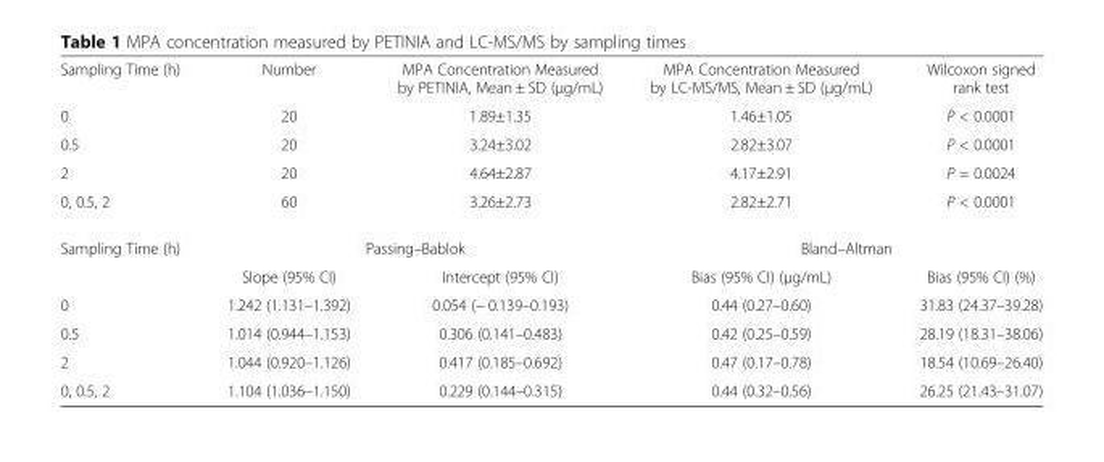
<table><tbody><tr><td>Sampling Time (h)</td><td>Number</td><td>MPA Concentration Measured by PETINIA, Mean ± SD (μg/mL)</td><td>MPA Concentration Measured by LC-MS/MS, Mean ± SD (μg/mL)</td><td>Wilcoxon signed rank test</td></tr><tr><td>0</td><td>20</td><td>1.89±1.35</td><td>1.46±1.05</td><td>P &lt; 0.0001</td></tr><tr><td>0.5</td><td>20</td><td>3.24±3.02</td><td>2.82±3.07</td><td>P &lt; 0.0001</td></tr><tr><td>2</td><td>20</td><td>4.64±2.87</td><td>4.17±2.91</td><td>P = 0.0024</td></tr><tr><td>0, 0.5, 2</td><td>60</td><td>3.26±2.73</td><td>2.82±2.71</td><td>P &lt; 0.0001</td></tr><tr><td rowspan="2">Sampling Time (h)</td><td colspan="2">Passing–Bablok</td><td colspan="2">Bland–Altman</td></tr><tr><td>Slope (95% CI)</td><td>Intercept (95% CI)</td><td>Bias (95% CI) (μg/mL)</td><td>Bias (95% CI) (%)</td></tr><tr><td>0</td><td>1.242 (1.131–1.392)</td><td>0.054 (− 0.139–0.193)</td><td>0.44 (0.27–0.60)</td><td>31.83 (24.37–39.28)</td></tr><tr><td>0.5</td><td>1.014 (0.944–1.153)</td><td>0.306 (0.141–0.483)</td><td>0.42 (0.25–0.59)</td><td>28.19 (18.31–38.06)</td></tr><tr><td>2</td><td>1.044 (0.920–1.126)</td><td>0.417 (0.185–0.692)</td><td>0.47 (0.17–0.78)</td><td>18.54 (10.69–26.40)</td></tr><tr><td>0, 0.5, 2</td><td>1.104 (1.036–1.150)</td><td>0.229 (0.144–0.315)</td><td>0.44 (0.32–0.56)</td><td>26.25 (21.43–31.07)</td></tr></tbody></table>